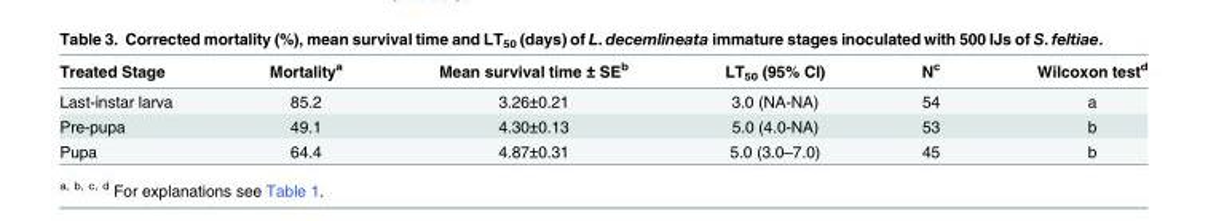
<table><thead><tr><td>Treated Stage</td><td>Mortality<sup>a</sup></td><td>Mean survival time ± SE<sup>b</sup></td><td>LT<sub>50</sub> (95% CI)</td><td>N<sup>c</sup></td><td>Wilcoxon test<sup>d</sup></td></tr></thead><tbody><tr><td>Last-instar larva</td><td>85.2</td><td>3.26±0.21</td><td>3.0 (NA-NA)</td><td>54</td><td>a</td></tr><tr><td>Pre-pupa</td><td>49.1</td><td>4.30±0.13</td><td>5.0 (4.0-NA)</td><td>53</td><td>b</td></tr><tr><td>Pupa</td><td>64.4</td><td>4.87±0.31</td><td>5.0 (3.0–7.0)</td><td>45</td><td>b</td></tr></tbody></table>